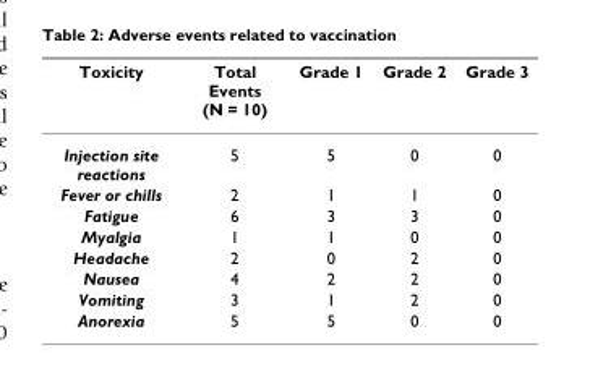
<table><thead><tr><td>Toxicity</td><td>Total Events (N = 10)</td><td>Grade 1</td><td>Grade 2</td><td>Grade 3</td></tr></thead><tbody><tr><td>Injection site reactions</td><td>5</td><td>5</td><td>0</td><td>0</td></tr><tr><td>Fever or chills</td><td>2</td><td>1</td><td>1</td><td>0</td></tr><tr><td>Fatigue</td><td>6</td><td>3</td><td>3</td><td>0</td></tr><tr><td>Myalgia</td><td>1</td><td>1</td><td>0</td><td>0</td></tr><tr><td>Headache</td><td>2</td><td>0</td><td>2</td><td>0</td></tr><tr><td>Nausea</td><td>4</td><td>2</td><td>2</td><td>0</td></tr><tr><td>Vomiting</td><td>3</td><td>1</td><td>2</td><td>0</td></tr><tr><td>Anorexia</td><td>5</td><td>5</td><td>0</td><td>0</td></tr></tbody></table>